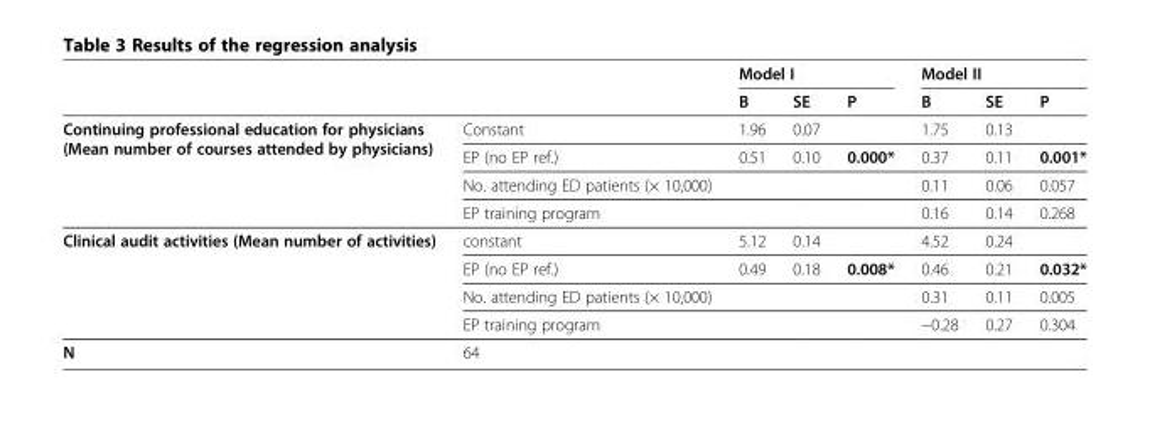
<table><thead><tr><td rowspan="2"></td><td rowspan="2"></td><td colspan="3">Model I</td><td colspan="3">Model II</td></tr><tr><td>B</td><td>SE</td><td>P</td><td>B</td><td>SE</td><td>P</td></tr></thead><tbody><tr><td rowspan="4">Continuing professional education for physicians (Mean number of courses attended by physicians)</td><td>Constant</td><td>1.96</td><td>0.07</td><td></td><td>1.75</td><td>0.13</td><td></td></tr><tr><td>EP (no EP ref.)</td><td>0.51</td><td>0.10</td><td>0.000*</td><td>0.37</td><td>0.11</td><td>0.001*</td></tr><tr><td>No. attending ED patients (× 10,000)</td><td></td><td></td><td></td><td>0.11</td><td>0.06</td><td>0.057</td></tr><tr><td>EP training program</td><td></td><td></td><td></td><td>0.16</td><td>0.14</td><td>0.268</td></tr><tr><td rowspan="4">Clinical audit activities (Mean number of activities)</td><td>constant</td><td>5.12</td><td>0.14</td><td></td><td>4.52</td><td>0.24</td><td></td></tr><tr><td>EP (no EP ref.)</td><td>0.49</td><td>0.18</td><td>0.008*</td><td>0.46</td><td>0.21</td><td>0.032*</td></tr><tr><td>No. attending ED patients (× 10,000)</td><td></td><td></td><td></td><td>0.31</td><td>0.11</td><td>0.005</td></tr><tr><td>EP training program</td><td></td><td></td><td></td><td>−0.28</td><td>0.27</td><td>0.304</td></tr><tr><td>N</td><td>64</td><td></td><td></td><td></td><td></td><td></td><td></td></tr></tbody></table>